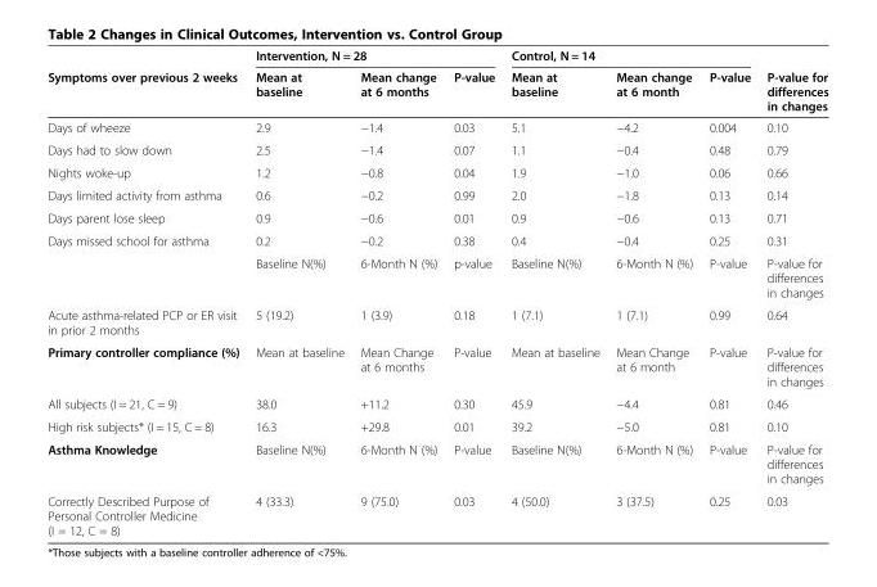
<table><thead><tr><td rowspan="2">Symptoms over previous 2 weeks</td><td colspan="3">Intervention, N = 28</td><td colspan="3">Control, N = 14</td><td rowspan="2">P-value for differences in changes</td></tr><tr><td>Mean at baseline</td><td>Mean change at 6 months</td><td>P-value</td><td>Mean at baseline</td><td>Mean change at 6 month</td><td>P-value</td></tr></thead><tbody><tr><td>Days of wheeze</td><td>2.9</td><td>−1.4</td><td>0.03</td><td>5.1</td><td>−4.2</td><td>0.004</td><td>0.10</td></tr><tr><td>Days had to slow down</td><td>2.5</td><td>−1.4</td><td>0.07</td><td>1.1</td><td>−0.4</td><td>0.48</td><td>0.79</td></tr><tr><td>Nights woke-up</td><td>1.2</td><td>−0.8</td><td>0.04</td><td>1.9</td><td>−1.0</td><td>0.06</td><td>0.66</td></tr><tr><td>Days limited activity from asthma</td><td>0.6</td><td>−0.2</td><td>0.99</td><td>2.0</td><td>−1.8</td><td>0.13</td><td>0.14</td></tr><tr><td>Days parent lose sleep</td><td>0.9</td><td>−0.6</td><td>0.01</td><td>0.9</td><td>−0.6</td><td>0.13</td><td>0.71</td></tr><tr><td rowspan="2">Days missed school for asthma</td><td>0.2</td><td>−0.2</td><td>0.38</td><td>0.4</td><td>−0.4</td><td>0.25</td><td>0.31</td></tr><tr><td>Baseline N(%)</td><td>6-Month N (%)</td><td>p-value</td><td>Baseline N(%)</td><td>6-Month N (%)</td><td>P-value</td><td>P-value for differences in changes</td></tr><tr><td>Acute asthma-related PCP or ER visit in prior 2 months</td><td>5 (19.2)</td><td>1 (3.9)</td><td>0.18</td><td>1 (7.1)</td><td>1 (7.1)</td><td>0.99</td><td>0.64</td></tr><tr><td>Primary controller compliance (%)</td><td>Mean at baseline</td><td>Mean Change at 6 months</td><td>P-value</td><td>Mean at baseline</td><td>Mean Change at 6 month</td><td>P-value</td><td>P-value for differences in changes</td></tr><tr><td>All subjects (I = 21, C = 9)</td><td>38.0</td><td>+11.2</td><td>0.30</td><td>45.9</td><td>−4.4</td><td>0.81</td><td>0.46</td></tr><tr><td>High risk subjects* (I = 15, C = 8)</td><td>16.3</td><td>+29.8</td><td>0.01</td><td>39.2</td><td>−5.0</td><td>0.81</td><td>0.10</td></tr><tr><td>Asthma Knowledge</td><td>Baseline N(%)</td><td>6-Month N (%)</td><td>P-value</td><td>Baseline N(%)</td><td>6-Month N (%)</td><td>P-value</td><td>P-value for differences in changes</td></tr><tr><td>Correctly Described Purpose of Personal Controller Medicine (I = 12, C = 8)</td><td>4 (33.3)</td><td>9 (75.0)</td><td>0.03</td><td>4 (50.0)</td><td>3 (37.5)</td><td>0.25</td><td>0.03</td></tr></tbody></table>